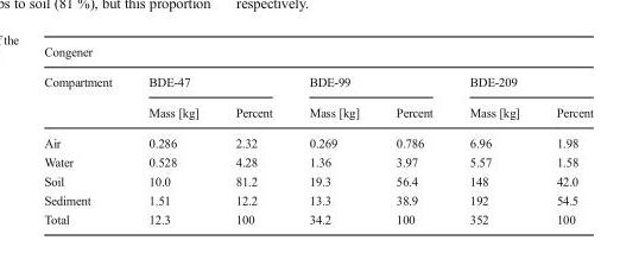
<table><thead><tr><td colspan="7">Congener</td></tr><tr><td rowspan="2">Compartment</td><td colspan="2">BDE-47</td><td colspan="2">BDE-99</td><td colspan="2">BDE-209</td></tr><tr><td>Mass [kg]</td><td>Percent</td><td>Mass [kg]</td><td>Percent</td><td>Mass [kg]</td><td>Percent</td></tr></thead><tbody><tr><td>Air</td><td>0.286</td><td>2.32</td><td>0.269</td><td>0.786</td><td>6.96</td><td>1.98</td></tr><tr><td>Water</td><td>0.528</td><td>4.28</td><td>1.36</td><td>3.97</td><td>5.57</td><td>1.58</td></tr><tr><td>Soil</td><td>10.0</td><td>81.2</td><td>19.3</td><td>56.4</td><td>148</td><td>42.0</td></tr><tr><td>Sediment</td><td>1.51</td><td>12.2</td><td>13.3</td><td>38.9</td><td>192</td><td>54.5</td></tr><tr><td>Total</td><td>12.3</td><td>100</td><td>34.2</td><td>100</td><td>352</td><td>100</td></tr></tbody></table>